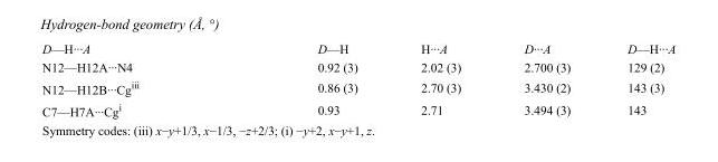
<table><tbody><tr><td>D—H···A</td><td>D—H</td><td>H···A</td><td>D···A</td><td>D—H···A</td></tr><tr><td>N12—H12A···N4</td><td>0.92 (3)</td><td>2.02 (3)</td><td>2.700 (3)</td><td>129 (2)</td></tr><tr><td>N12—H12B···Cg<sup>iii</sup></td><td>0.86 (3)</td><td>2.70 (3)</td><td>3.430 (2)</td><td>143 (3)</td></tr><tr><td>C7—H7A···Cg<sup>i</sup></td><td>0.93</td><td>2.71</td><td>3.494 (3)</td><td>143</td></tr></tbody></table>